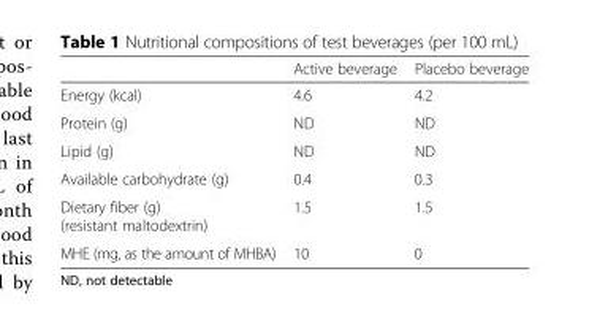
<table><thead><tr><td></td><td>Active beverage</td><td>Placebo beverage</td></tr></thead><tbody><tr><td>Energy (kcal)</td><td>4.6</td><td>4.2</td></tr><tr><td>Protein (g)</td><td>ND</td><td>ND</td></tr><tr><td>Lipid (g)</td><td>ND</td><td>ND</td></tr><tr><td>Available carbohydrate (g)</td><td>0.4</td><td>0.3</td></tr><tr><td>Dietary fiber (g) (resistant maltodextrin)</td><td>1.5</td><td>1.5</td></tr><tr><td>MHE (mg, as the amount of MHBA)</td><td>10</td><td>0</td></tr></tbody></table>